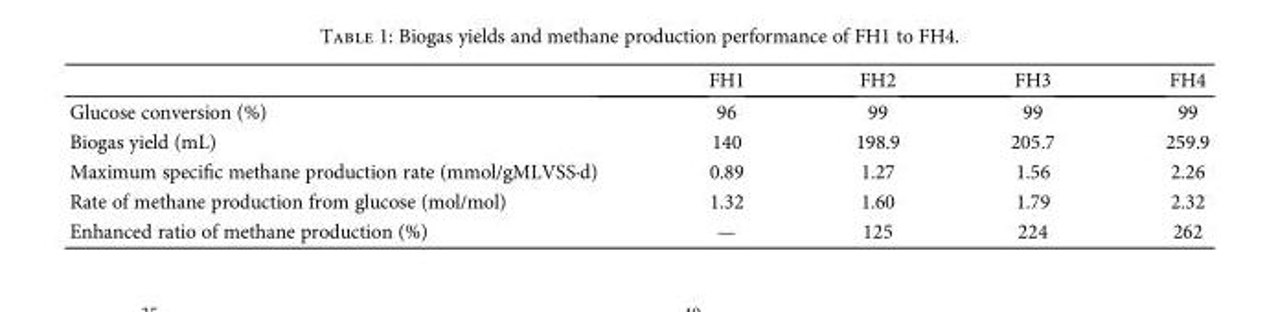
<table><thead><tr><td></td><td>FH1</td><td>FH2</td><td>FH3</td><td>FH4</td></tr></thead><tbody><tr><td>Glucose conversion (%)</td><td>96</td><td>99</td><td>99</td><td>99</td></tr><tr><td>Biogas yield (mL)</td><td>140</td><td>198.9</td><td>205.7</td><td>259.9</td></tr><tr><td>Maximum specific methane production rate (mmol/gMLVSS·d)</td><td>0.89</td><td>1.27</td><td>1.56</td><td>2.26</td></tr><tr><td>Rate of methane production from glucose (mol/mol)</td><td>1.32</td><td>1.60</td><td>1.79</td><td>2.32</td></tr><tr><td>Enhanced ratio of methane production (%)</td><td>—</td><td>125</td><td>224</td><td>262</td></tr></tbody></table>